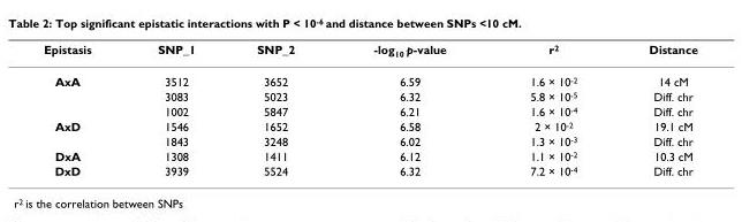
<table><thead><tr><td>Epistasis</td><td>SNP_1</td><td>SNP_2</td><td>-log<sub>10</sub> p-value</td><td>r<sup>2</sup></td><td>Distance</td></tr></thead><tbody><tr><td rowspan="3">AxA</td><td>3512</td><td>3652</td><td>6.59</td><td>1.6 × 10<sup>-2</sup></td><td>14 cM</td></tr><tr><td>3083</td><td>5023</td><td>6.32</td><td>5.8 × 10<sup>-5</sup></td><td>Diff. chr</td></tr><tr><td>1002</td><td>5847</td><td>6.21</td><td>1.6 × 10<sup>-4</sup></td><td>Diff. chr</td></tr><tr><td rowspan="2">AxD</td><td>1546</td><td>1652</td><td>6.58</td><td>2 × 10<sup>-2</sup></td><td>19.1 cM</td></tr><tr><td>1843</td><td>3248</td><td>6.02</td><td>1.3 × 10<sup>-3</sup></td><td>Diff. chr</td></tr><tr><td>DxA</td><td>1308</td><td>1411</td><td>6.12</td><td>1.1 × 10<sup>-2</sup></td><td>10.3 cM</td></tr><tr><td>DxD</td><td>3939</td><td>5524</td><td>6.32</td><td>7.2 × 10<sup>-4</sup></td><td>Diff. chr</td></tr></tbody></table>